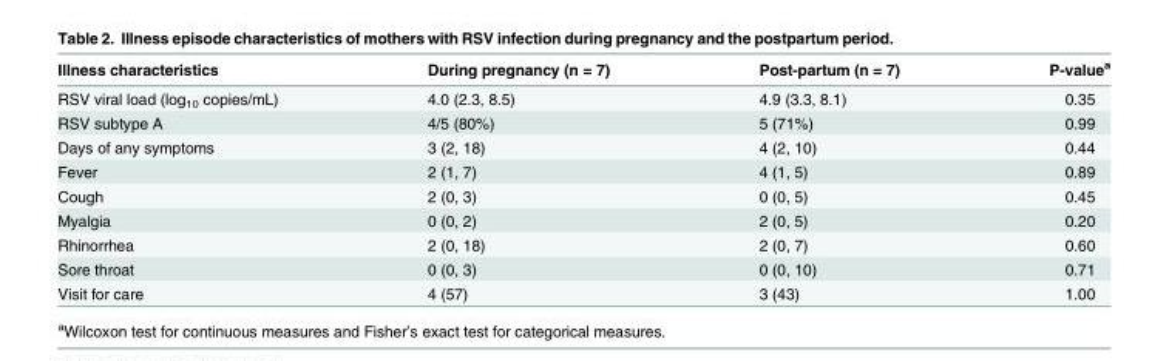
<table><thead><tr><td>Illness characteristics</td><td>During pregnancy (n = 7)</td><td>Post-partum (n = 7)</td><td>P-value<sup>a</sup></td></tr></thead><tbody><tr><td>RSV viral load (log<sub>10</sub> copies/mL)</td><td>4.0 (2.3, 8.5)</td><td>4.9 (3.3, 8.1)</td><td>0.35</td></tr><tr><td>RSV subtype A</td><td>4/5 (80%)</td><td>5 (71%)</td><td>0.99</td></tr><tr><td>Days of any symptoms</td><td>3 (2, 18)</td><td>4 (2, 10)</td><td>0.44</td></tr><tr><td>Fever</td><td>2 (1, 7)</td><td>4 (1, 5)</td><td>0.89</td></tr><tr><td>Cough</td><td>2 (0, 3)</td><td>0 (0, 5)</td><td>0.45</td></tr><tr><td>Myalgia</td><td>0 (0, 2)</td><td>2 (0, 5)</td><td>0.20</td></tr><tr><td>Rhinorrhea</td><td>2 (0, 18)</td><td>2 (0, 7)</td><td>0.60</td></tr><tr><td>Sore throat</td><td>0 (0, 3)</td><td>0 (0, 10)</td><td>0.71</td></tr><tr><td>Visit for care</td><td>4 (57)</td><td>3 (43)</td><td>1.00</td></tr></tbody></table>